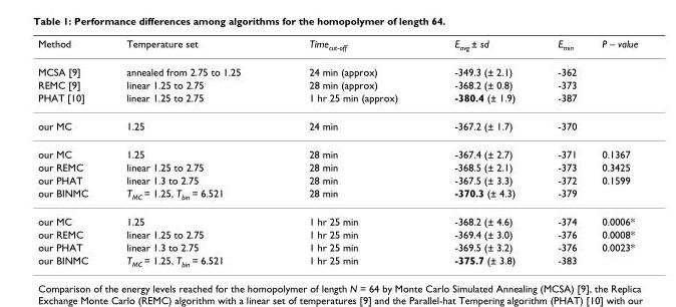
<table><thead><tr><td>Method</td><td>Temperature set</td><td>Time<sub>cut-off</sub></td><td>E<sub>avg</sub> ± sd</td><td>E<sub>min</sub></td><td>P – value</td></tr></thead><tbody><tr><td>MCSA [9]</td><td>annealed from 2.75 to 1.25</td><td>24 min (approx)</td><td>-349.3 (± 2.1)</td><td>-362</td><td></td></tr><tr><td>REMC [9]</td><td>linear 1.25 to 2.75</td><td>28 min (approx)</td><td>-368.2 (± 0.8)</td><td>-373</td><td></td></tr><tr><td>PHAT [10]</td><td>linear 1.25 to 2.75</td><td>1 hr 25 min (approx)</td><td>-380.4 (± 1.9)</td><td>-387</td><td></td></tr><tr><td>our MC</td><td>1.25</td><td>24 min</td><td>-367.2 (± 1.7)</td><td>-370</td><td></td></tr><tr><td>our MC</td><td>1.25</td><td>28 min</td><td>-367.4 (± 2.7)</td><td>-371</td><td>0.1367</td></tr><tr><td>our REMC</td><td>linear 1.25 to 2.75</td><td>28 min</td><td>-368.5 (± 2.1)</td><td>-373</td><td>0.3425</td></tr><tr><td>our PHAT</td><td>linear 1.3 to 2.75</td><td>28 min</td><td>-367.5 (± 3.3)</td><td>-372</td><td>0.1599</td></tr><tr><td>our BINMC</td><td>T<sub>MC</sub> = 1.25, T<sub>bin</sub> = 6.521</td><td>28 min</td><td>-370.3 (± 4.3)</td><td>-379</td><td></td></tr><tr><td>our MC</td><td>1.25</td><td>1 hr 25 min</td><td>-368.2 (± 4.6)</td><td>-374</td><td>0.0006*</td></tr><tr><td>our REMC</td><td>linear 1.25 to 2.75</td><td>1 hr 25 min</td><td>-369.4 (± 3.0)</td><td>-376</td><td>0.0008*</td></tr><tr><td>our PHAT</td><td>linear 1.3 to 2.75</td><td>1 hr 25 min</td><td>-369.5 (± 3.2)</td><td>-376</td><td>0.0023*</td></tr><tr><td>our BINMC</td><td>T<sub>MC</sub> = 1.25, T<sub>bin</sub> = 6.521</td><td>1 hr 25 min</td><td>-375.7 (± 3.8)</td><td>-383</td><td></td></tr></tbody></table>